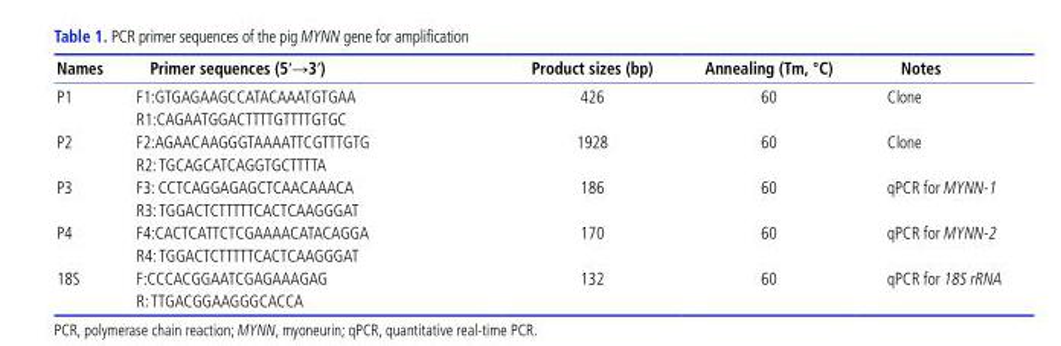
<table><thead><tr><td>Names</td><td>Primer sequences (5′→3′)</td><td>Product sizes (bp)</td><td>Annealing (Tm, °C)</td><td>Notes</td></tr></thead><tbody><tr><td>P1</td><td>F1:GTGAGAAGCCATACAAATGTGAA R1:CAGAATGGACTTTTGTTTTGTGC</td><td>426</td><td>60</td><td>Clone</td></tr><tr><td>P2</td><td>F2:AGAACAAGGGTAAAATTCGTTTGTG R2: TGCAGCATCAGGTGCTTTTA</td><td>1928</td><td>60</td><td>Clone</td></tr><tr><td>P3</td><td>F3: CCTCAGGAGAGCTCAACAAACA R3: TGGACTCTTTTTCACTCAAGGGAT</td><td>186</td><td>60</td><td>qPCR for MYNN-1</td></tr><tr><td>P4</td><td>F4:CACTCATTCTCGAAAACATACAGGA R4: TGGACTCTTTTTCACTCAAGGGAT</td><td>170</td><td>60</td><td>qPCR for MYNN-2</td></tr><tr><td>18S</td><td>F:CCCACGGAATCGAGAAAGAG</td><td>132</td><td>60</td><td>qPCR for 18S rRNA</td></tr></tbody></table>